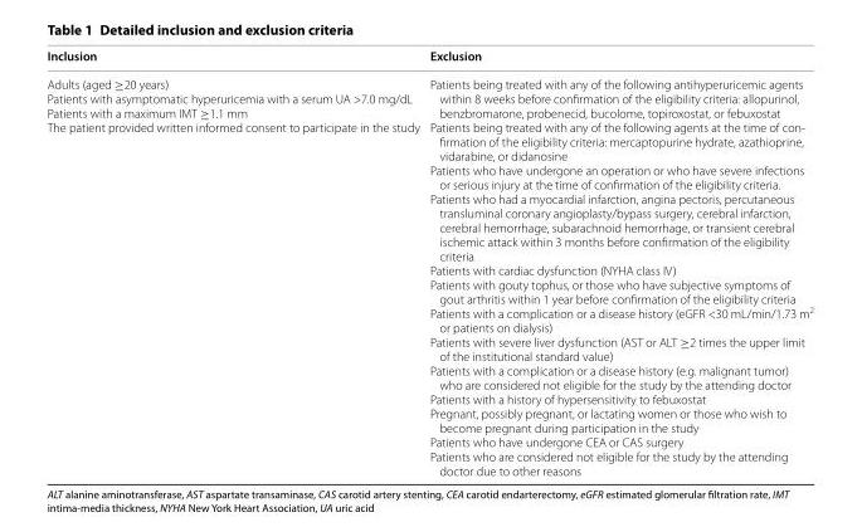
<table><thead><tr><td>Inclusion</td><td>Exclusion</td></tr></thead><tbody><tr><td>Adults (aged ≥20 years) Patients with asymptomatic hyperuricemia with a serum UA &gt;7.0 mg/dL Patients with a maximum IMT ≥1.1 mm The patient provided written informed consent to participate in the study</td><td>Patients being treated with any of the following antihyperuricemic agents within 8 weeks before confirmation of the eligibility criteria: allopurinol, benzbromarone, probenecid, bucolome, topiroxostat, or febuxostat Patients being treated with any of the following agents at the time of con‑ firmation of the eligibility criteria: mercaptopurine hydrate, azathioprine, vidarabine, or didanosine Patients who have undergone an operation or who have severe infections or serious injury at the time of confirmation of the eligibility criteria. Patients who had a myocardial infarction, angina pectoris, percutaneous transluminal coronary angioplasty/bypass surgery, cerebral infarction, cerebral hemorrhage, subarachnoid hemorrhage, or transient cerebral ischemic attack within 3 months before confirmation of the eligibility criteria Patients with cardiac dysfunction (NYHA class IV) Patients with gouty tophus, or those who have subjective symptoms of gout arthritis within 1 year before confirmation of the eligibility criteria Patients with a complication or a disease history (eGFR &lt;30 mL/min/1.73 m2 or patients on dialysis) Patients with severe liver dysfunction (AST or ALT ≥2 times the upper limit of the institutional standard value) Patients with a complication or a disease history (e.g. malignant tumor) who are considered not eligible for the study by the attending doctor Patients with a history of hypersensitivity to febuxostat Pregnant, possibly pregnant, or lactating women or those who wish to become pregnant during participation in the study Patients who have undergone CEA or CAS surgery Patients who are considered not eligible for the study by the attending doctor due to other reasons</td></tr></tbody></table>